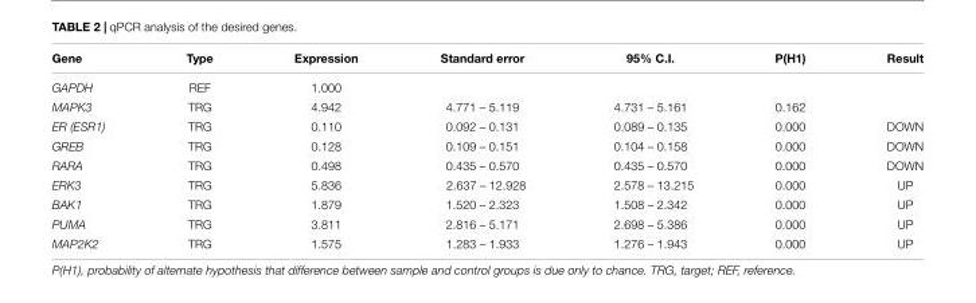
<table><thead><tr><td>Gene</td><td>Type</td><td>Expression</td><td>Standard error</td><td>95% C.I.</td><td>P(H1)</td><td>Result</td></tr></thead><tbody><tr><td>GAPDH</td><td>REF</td><td>1.000</td><td></td><td></td><td></td><td></td></tr><tr><td>MAPK3</td><td>TRG</td><td>4.942</td><td>4.771 – 5.119</td><td>4.731 – 5.161</td><td>0.162</td><td></td></tr><tr><td>ER (ESR1)</td><td>TRG</td><td>0.110</td><td>0.092 – 0.131</td><td>0.089 – 0.135</td><td>0.000</td><td>DOWN</td></tr><tr><td>GREB</td><td>TRG</td><td>0.128</td><td>0.109 – 0.151</td><td>0.104 – 0.158</td><td>0.000</td><td>DOWN</td></tr><tr><td>RARA</td><td>TRG</td><td>0.498</td><td>0.435 – 0.570</td><td>0.435 – 0.570</td><td>0.000</td><td>DOWN</td></tr><tr><td>ERK3</td><td>TRG</td><td>5.836</td><td>2.637 – 12.928</td><td>2.578 – 13.215</td><td>0.000</td><td>UP</td></tr><tr><td>BAK1</td><td>TRG</td><td>1.879</td><td>1.520 – 2.323</td><td>1.508 – 2.342</td><td>0.000</td><td>UP</td></tr><tr><td>PUMA</td><td>TRG</td><td>3.811</td><td>2.816 – 5.171</td><td>2.698 – 5.386</td><td>0.000</td><td>UP</td></tr><tr><td>MAP2K2</td><td>TRG</td><td>1.575</td><td>1.283 – 1.933</td><td>1.276 – 1.943</td><td>0.000</td><td>UP</td></tr></tbody></table>